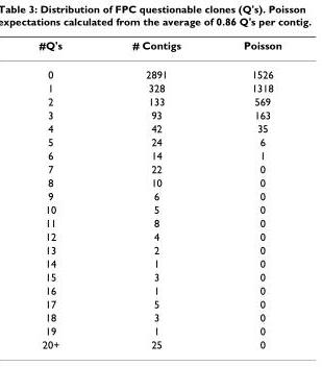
<table><thead><tr><td>#Q&#x27;s</td><td># Contigs</td><td>Poisson</td></tr></thead><tbody><tr><td>0</td><td>2891</td><td>1526</td></tr><tr><td>1</td><td>328</td><td>1318</td></tr><tr><td>2</td><td>133</td><td>569</td></tr><tr><td>3</td><td>93</td><td>163</td></tr><tr><td>4</td><td>42</td><td>35</td></tr><tr><td>5</td><td>24</td><td>6</td></tr><tr><td>6</td><td>14</td><td>1</td></tr><tr><td>7</td><td>22</td><td>0</td></tr><tr><td>8</td><td>10</td><td>0</td></tr><tr><td>9</td><td>6</td><td>0</td></tr><tr><td>10</td><td>5</td><td>0</td></tr><tr><td>11</td><td>8</td><td>0</td></tr><tr><td>12</td><td>4</td><td>0</td></tr><tr><td>13</td><td>2</td><td>0</td></tr><tr><td>14</td><td>1</td><td>0</td></tr><tr><td>15</td><td>3</td><td>0</td></tr><tr><td>16</td><td>1</td><td>0</td></tr><tr><td>17</td><td>5</td><td>0</td></tr><tr><td>18</td><td>3</td><td>0</td></tr><tr><td>19</td><td>1</td><td>0</td></tr><tr><td>20+</td><td>25</td><td>0</td></tr></tbody></table>